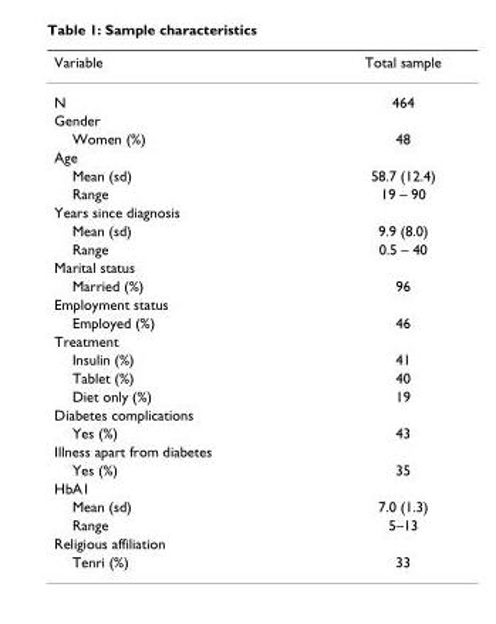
<table><thead><tr><td>Variable</td><td>Total sample</td></tr></thead><tbody><tr><td>N</td><td>464</td></tr><tr><td colspan="2">Gender</td></tr><tr><td>Women (%)</td><td>48</td></tr><tr><td colspan="2">Age</td></tr><tr><td>Mean (sd)</td><td>58.7 (12.4)</td></tr><tr><td>Range</td><td>19 – 90</td></tr><tr><td colspan="2">Years since diagnosis</td></tr><tr><td>Mean (sd)</td><td>9.9 (8.0)</td></tr><tr><td>Range</td><td>0.5 – 40</td></tr><tr><td colspan="2">Marital status</td></tr><tr><td>Married (%)</td><td>96</td></tr><tr><td colspan="2">Employment status</td></tr><tr><td>Employed (%)</td><td>46</td></tr><tr><td colspan="2">Treatment</td></tr><tr><td>Insulin (%)</td><td>41</td></tr><tr><td>Tablet (%)</td><td>40</td></tr><tr><td>Diet only (%)</td><td>19</td></tr><tr><td colspan="2">Diabetes complications</td></tr><tr><td>Yes (%)</td><td>43</td></tr><tr><td colspan="2">Illness apart from diabetes</td></tr><tr><td>Yes (%)</td><td>35</td></tr><tr><td colspan="2">HbA1</td></tr><tr><td>Mean (sd)</td><td>7.0 (1.3)</td></tr><tr><td>Range</td><td>5–13</td></tr><tr><td colspan="2">Religious affiliation</td></tr><tr><td>Tenri (%)</td><td>33</td></tr></tbody></table>